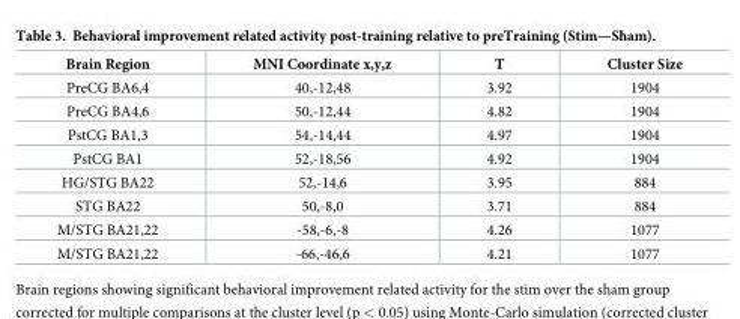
<table><thead><tr><td>Brain Region</td><td>MNI Coordinate x,y,z</td><td>T</td><td>Cluster Size</td></tr></thead><tbody><tr><td>PreCG BA6,4</td><td>40,-12,48</td><td>3.92</td><td>1904</td></tr><tr><td>PreCG BA4,6</td><td>50,-12,44</td><td>4.82</td><td>1904</td></tr><tr><td>PstCG BA1,3</td><td>54,-14,44</td><td>4.97</td><td>1904</td></tr><tr><td>PstCG BA1</td><td>52,-18,56</td><td>4.92</td><td>1904</td></tr><tr><td>HG/STG BA22</td><td>52,-14,6</td><td>3.95</td><td>884</td></tr><tr><td>STG BA22</td><td>50,-8,0</td><td>3.71</td><td>884</td></tr><tr><td>M/STG BA21,22</td><td>-58,-6,-8</td><td>4.26</td><td>1077</td></tr><tr><td>M/STG BA21,22</td><td>-66,-46,6</td><td>4.21</td><td>1077</td></tr></tbody></table>